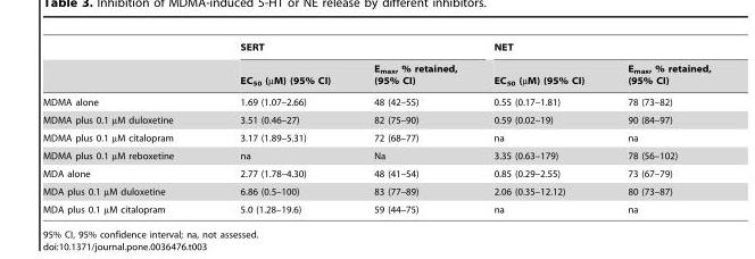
<table><thead><tr><td rowspan="2"></td><td colspan="2">SERT</td><td colspan="2">NET</td></tr><tr><td>EC<sub>50</sub> (µM) (95% CI)</td><td>E<sub>max</sub>, % retained, (95% CI)</td><td>EC<sub>50</sub> (µM) (95% CI)</td><td>E<sub>max</sub>, % retained, (95% CI)</td></tr></thead><tbody><tr><td>MDMA alone</td><td>1.69 (1.07–2.66)</td><td>48 (42–55)</td><td>0.55 (0.17–1.81)</td><td>78 (73–82)</td></tr><tr><td>MDMA plus 0.1 µM duloxetine</td><td>3.51 (0.46–27)</td><td>82 (75–90)</td><td>0.59 (0.02–19)</td><td>90 (84–97)</td></tr><tr><td>MDMA plus 0.1 µM citalopram</td><td>3.17 (1.89–5.31)</td><td>72 (68–77)</td><td>na</td><td>na</td></tr><tr><td>MDMA plus 0.1 µM reboxetine</td><td>na</td><td>Na</td><td>3.35 (0.63–179)</td><td>78 (56–102)</td></tr><tr><td>MDA alone</td><td>2.77 (1.78–4.30)</td><td>48 (41–54)</td><td>0.85 (0.29–2.55)</td><td>73 (67–79)</td></tr><tr><td>MDA plus 0.1 µM duloxetine</td><td>6.86 (0.5–100)</td><td>83 (77–89)</td><td>2.06 (0.35–12.12)</td><td>80 (73–87)</td></tr><tr><td>MDA plus 0.1 µM citalopram</td><td>5.0 (1.28–19.6)</td><td>59 (44–75)</td><td>na</td><td>na</td></tr></tbody></table>